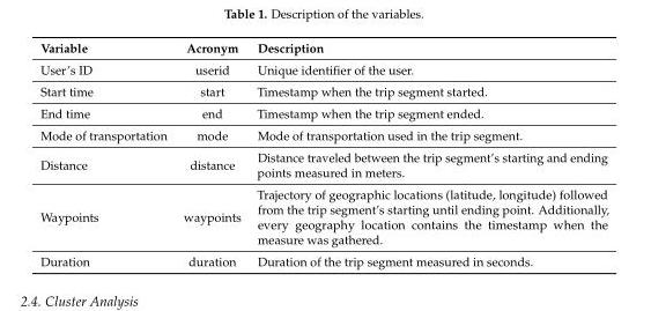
<table><thead><tr><td>Variable</td><td>Acronym</td><td>Description</td></tr></thead><tbody><tr><td>User’s ID</td><td>userid</td><td>Unique identifier of the user.</td></tr><tr><td>Start time</td><td>start</td><td>Timestamp when the trip segment started.</td></tr><tr><td>End time</td><td>end</td><td>Timestamp when the trip segment ended.</td></tr><tr><td>Mode of transportation</td><td>mode</td><td>Mode of transportation used in the trip segment.</td></tr><tr><td>Distance</td><td>distance</td><td>Distance traveled between the trip segment’s starting and ending points measured in meters.</td></tr><tr><td>Waypoints</td><td>waypoints</td><td>Trajectory of geographic locations (latitude, longitude) followed from the trip segment’s starting until ending point. Additionally, every geography location contains the timestamp when the measure was gathered.</td></tr><tr><td>Duration</td><td>duration</td><td>Duration of the trip segment measured in seconds.</td></tr></tbody></table>